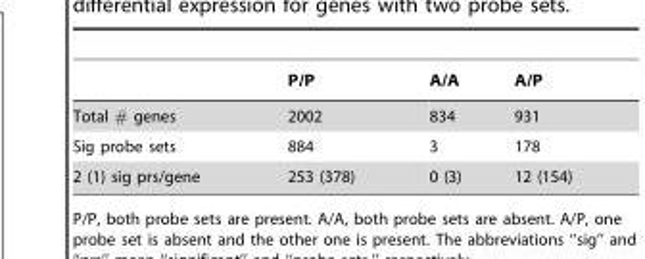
<table><thead><tr><td></td><td>P/P</td><td>A/A</td><td>A/P</td></tr></thead><tbody><tr><td>Total # genes</td><td>2002</td><td>834</td><td>931</td></tr><tr><td>Sig probe sets</td><td>884</td><td>3</td><td>178</td></tr><tr><td>2 (1) sig prs/gene</td><td>253 (378)</td><td>0 (3)</td><td>12 (154)</td></tr></tbody></table>